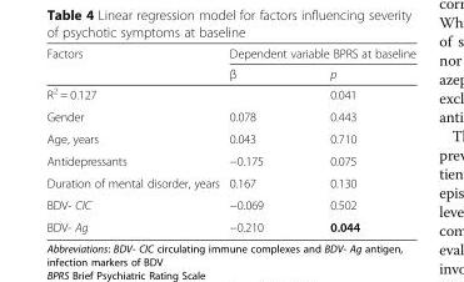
<table><thead><tr><td rowspan="2">Factors</td><td colspan="2">Dependent variable BPRS at baseline</td></tr><tr><td>β</td><td>p</td></tr></thead><tbody><tr><td>R<sup>2</sup> = 0.127</td><td></td><td>0.041</td></tr><tr><td>Gender</td><td>0.078</td><td>0.443</td></tr><tr><td>Age, years</td><td>0.043</td><td>0.710</td></tr><tr><td>Antidepressants</td><td>−0.175</td><td>0.075</td></tr><tr><td>Duration of mental disorder, years</td><td>0.167</td><td>0.130</td></tr><tr><td>BDV- CIC</td><td>−0.069</td><td>0.502</td></tr><tr><td>BDV- Ag</td><td>−0.210</td><td>0.044</td></tr></tbody></table>